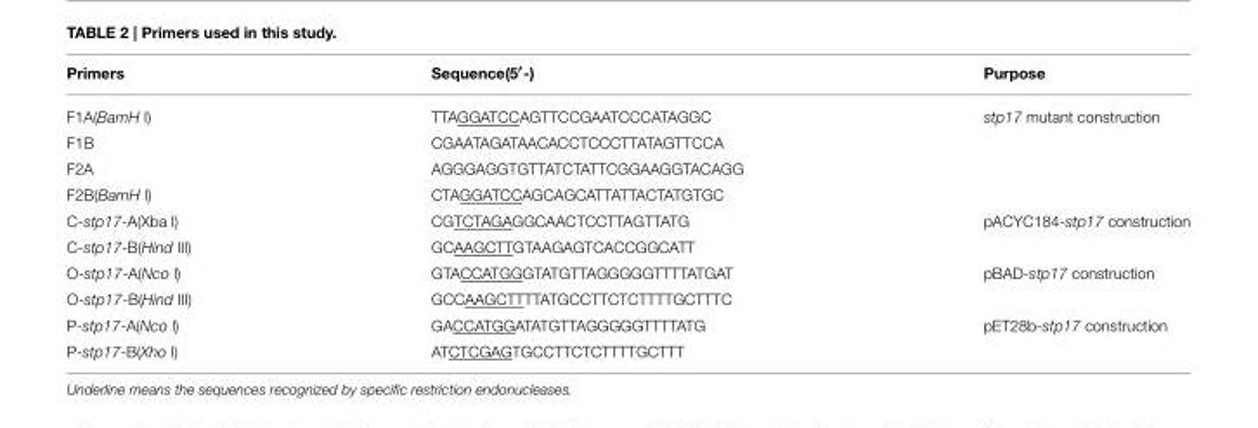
<table><thead><tr><td>Primers</td><td>Sequence(5′-)</td><td>Purpose</td></tr></thead><tbody><tr><td>F1A(BamH I)</td><td>TTAGGATCCAGTTCCGAATCCCATAGGC</td><td>stp17 mutant construction</td></tr><tr><td>F1B</td><td>CGAATAGATAACACCTCCCTTATAGTTCCA</td><td></td></tr><tr><td>F2A</td><td>AGGGAGGTGTTATCTATTCGGAAGGTACAGG</td><td></td></tr><tr><td>F2B(BamH I)</td><td>CTAGGATCCAGCAGCATTATTACTATGTGC</td><td></td></tr><tr><td>C-stp17-A(Xba I)</td><td>CGTCTAGAGGCAACTCCTTAGTTATG</td><td>pACYC184-stp17 construction</td></tr><tr><td>C-stp17-B(Hind III)</td><td>GCAAGCTTGTAAGAGTCACCGGCATT</td><td></td></tr><tr><td>O-stp17-A(Nco I)</td><td>GTACCATGGGTATGTTAGGGGGTTTTATGAT</td><td>pBAD-stp17 construction</td></tr><tr><td>O-stp17-B(Hind III)</td><td>GCCAAGCTTTTATGCCTTCTCTTTTGCTTTC</td><td></td></tr><tr><td>P-stp17-A(Nco I)</td><td>GACCATGGATATGTTAGGGGGTTTTATG</td><td>pET28b-stp17 construction</td></tr><tr><td>P-stp17-B(Xho I)</td><td>ATCTCGAGTGCCTTCTCTTTTGCTTT</td><td></td></tr></tbody></table>